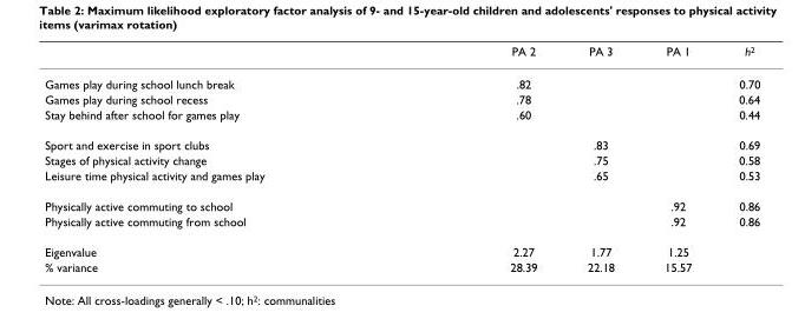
<table><thead><tr><td></td><td>PA 2</td><td>PA 3</td><td>PA 1</td><td>h<sup>2</sup></td></tr></thead><tbody><tr><td>Games play during school lunch break</td><td>.82</td><td></td><td></td><td>0.70</td></tr><tr><td>Games play during school recess</td><td>.78</td><td></td><td></td><td>0.64</td></tr><tr><td>Stay behind after school for games play</td><td>.60</td><td></td><td></td><td>0.44</td></tr><tr><td>Sport and exercise in sport clubs</td><td></td><td>.83</td><td></td><td>0.69</td></tr><tr><td>Stages of physical activity change</td><td></td><td>.75</td><td></td><td>0.58</td></tr><tr><td>Leisure time physical activity and games play</td><td></td><td>.65</td><td></td><td>0.53</td></tr><tr><td>Physically active commuting to school</td><td></td><td></td><td>.92</td><td>0.86</td></tr><tr><td>Physically active commuting from school</td><td></td><td></td><td>.92</td><td>0.86</td></tr><tr><td>Eigenvalue</td><td>2.27</td><td>1.77</td><td>1.25</td><td></td></tr><tr><td>% variance</td><td>28.39</td><td>22.18</td><td>15.57</td><td></td></tr></tbody></table>